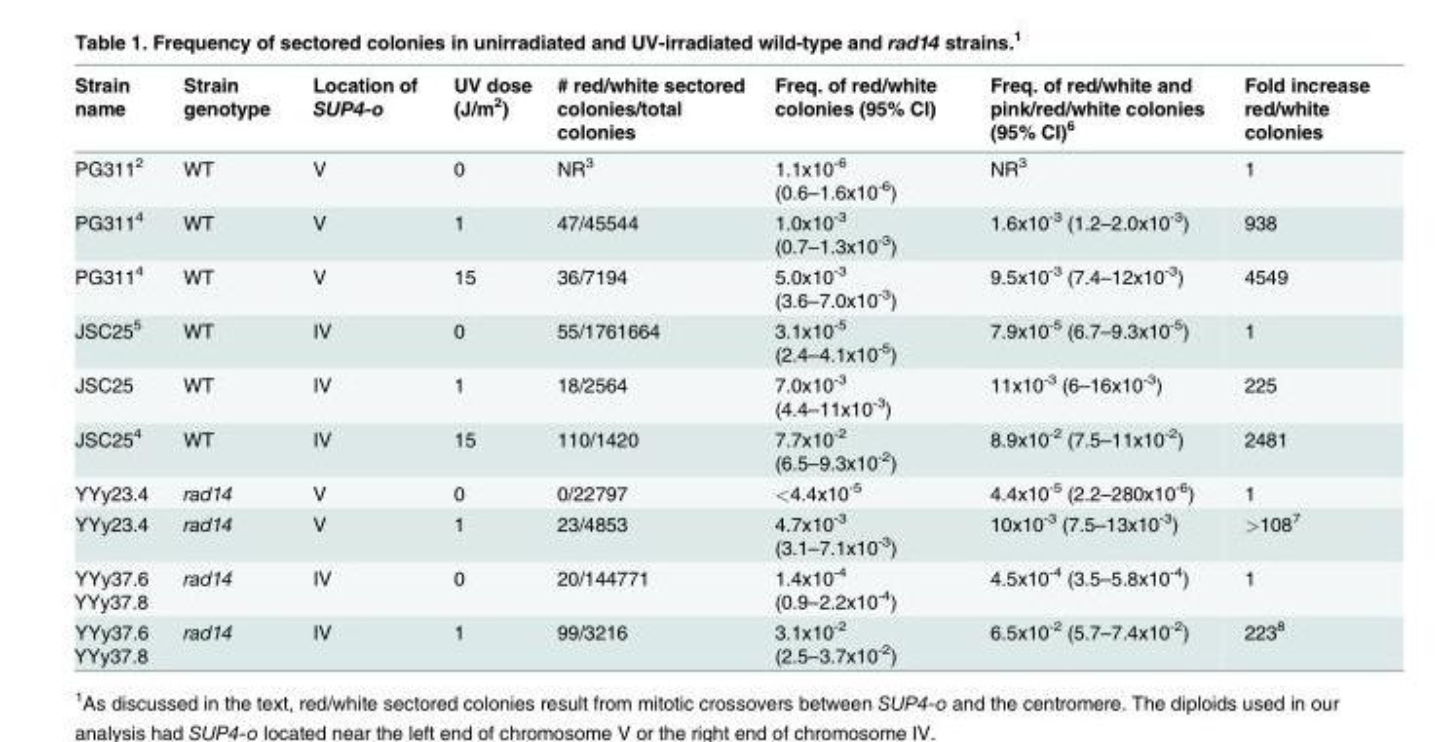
<table><thead><tr><td>Strain name</td><td>Strain genotype</td><td>Location of SUP4-o</td><td>UV dose (J/m<sup>2</sup>)</td><td># red/white sectored colonies/total colonies</td><td>Freq. of red/white colonies (95% CI)</td><td>Freq. of red/white and pink/red/white colonies (95% CI)<sup>6</sup></td><td>Fold increase red/white colonies</td></tr></thead><tbody><tr><td>PG311<sup>2</sup></td><td>WT</td><td>V</td><td>0</td><td>NR<sup>3</sup></td><td>1.1x10<sup>-6</sup> (0.6–1.6x10<sup>-6</sup>)</td><td>NR<sup>3</sup></td><td>1</td></tr><tr><td>PG311<sup>4</sup></td><td>WT</td><td>V</td><td>1</td><td>47/45544</td><td>1.0x10<sup>-3</sup> (0.7–1.3x10<sup>-3</sup>)</td><td>1.6x10<sup>-3</sup> (1.2–2.0x10<sup>-3</sup>)</td><td>938</td></tr><tr><td>PG311<sup>4</sup></td><td>WT</td><td>V</td><td>15</td><td>36/7194</td><td>5.0x10<sup>-3</sup> (3.6–7.0x10<sup>-3</sup>)</td><td>9.5x10<sup>-3</sup> (7.4–12x10<sup>-3</sup>)</td><td>4549</td></tr><tr><td>JSC25<sup>5</sup></td><td>WT</td><td>IV</td><td>0</td><td>55/1761664</td><td>3.1x10<sup>-5</sup> (2.4–4.1x10<sup>-5</sup>)</td><td>7.9x10<sup>-5</sup> (6.7–9.3x10<sup>-5</sup>)</td><td>1</td></tr><tr><td>JSC25</td><td>WT</td><td>IV</td><td>1</td><td>18/2564</td><td>7.0x10<sup>-3</sup> (4.4–11x10<sup>-3</sup>)</td><td>11x10<sup>-3</sup> (6–16x10<sup>-3</sup>)</td><td>225</td></tr><tr><td>JSC25<sup>4</sup></td><td>WT</td><td>IV</td><td>15</td><td>110/1420</td><td>7.7x10<sup>-2</sup> (6.5–9.3x10<sup>-2</sup>)</td><td>8.9x10<sup>-2</sup> (7.5–11x10<sup>-2</sup>)</td><td>2481</td></tr><tr><td>YYy23.4</td><td>rad14</td><td>V</td><td>0</td><td>0/22797</td><td>&lt;4.4x10<sup>-5</sup></td><td>4.4x10<sup>-5</sup> (2.2–280x10<sup>-6</sup>)</td><td>1</td></tr><tr><td>YYy23.4</td><td>rad14</td><td>V</td><td>1</td><td>23/4853</td><td>4.7x10<sup>-3</sup> (3.1–7.1x10<sup>-3</sup>)</td><td>10x10<sup>-3</sup> (7.5–13x10<sup>-3</sup>)</td><td>&gt;108<sup>7</sup></td></tr><tr><td>YYy37.6 YYy37.8</td><td>rad14</td><td>IV</td><td>0</td><td>20/144771</td><td>1.4x10<sup>-4</sup> (0.9–2.2x10<sup>-4</sup>)</td><td>4.5x10<sup>-4</sup> (3.5–5.8x10<sup>-4</sup>)</td><td>1</td></tr><tr><td>YYy37.6 YYy37.8</td><td>rad14</td><td>IV</td><td>1</td><td>99/3216</td><td>3.1x10<sup>-2</sup> (2.5–3.7x10<sup>-2</sup>)</td><td>6.5x10<sup>-2</sup> (5.7–7.4x10<sup>-2</sup>)</td><td>223<sup>8</sup></td></tr></tbody></table>